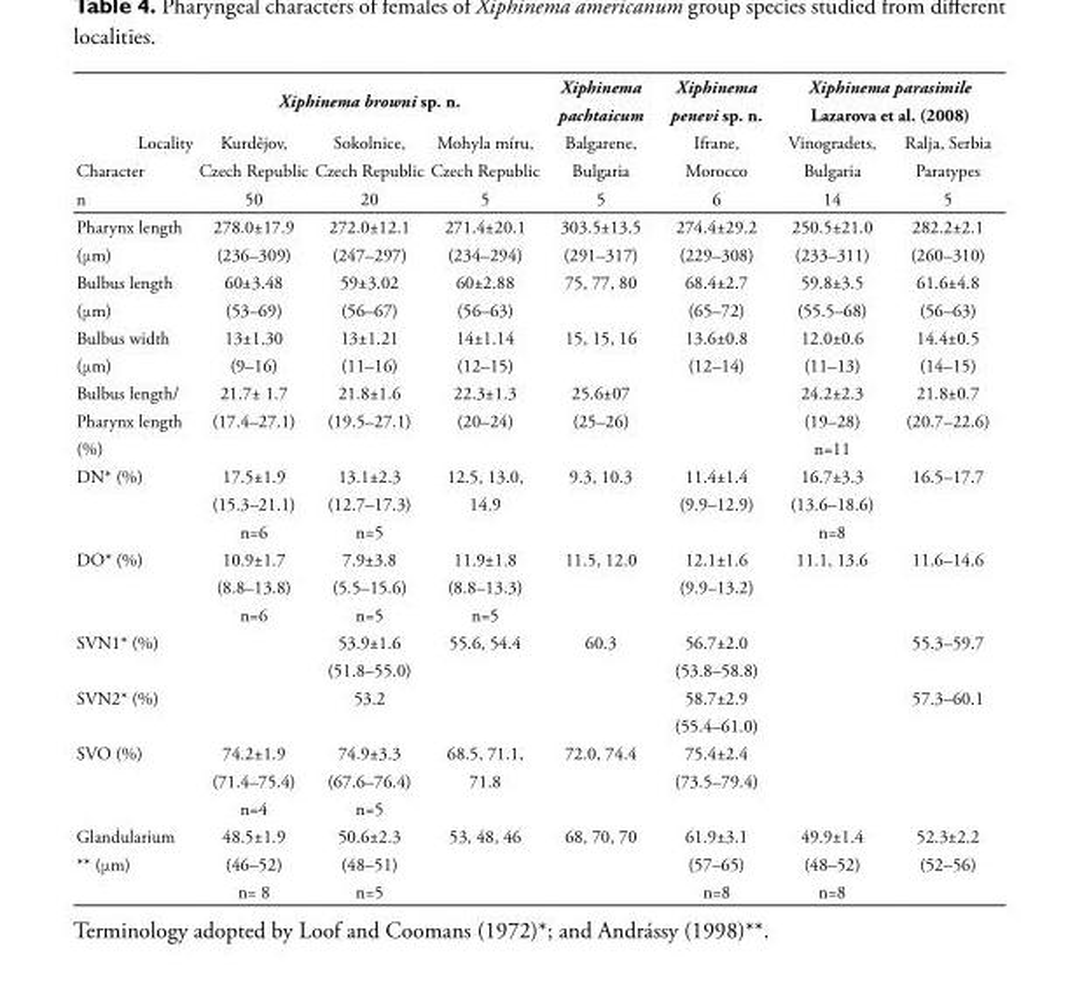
<table><thead><tr><td rowspan="2">Locality Character</td><td colspan="3">Xiphinema browni sp. n.</td><td rowspan="2">Xiphinema pachtaicum Balgarene, Bulgaria</td><td rowspan="2">Xiphinema penevi sp. n. Ifrane, Morocco</td><td colspan="2">Xiphinema parasimile Lazarova et al. (2008)</td></tr><tr><td>Kurdějov, Czech Republic</td><td>Sokolnice, Czech Republic</td><td>Mohyla míru, Czech Republic</td><td>Vinogradets, Bulgaria</td><td>Ralja, Serbia Paratypes</td></tr></thead><tbody><tr><td>n</td><td>50</td><td>20</td><td>5</td><td>5</td><td>6</td><td>14</td><td>5</td></tr><tr><td>Pharynx length (μm)</td><td>278.0±17.9 (236–309)</td><td>272.0±12.1 (247–297)</td><td>271.4±20.1 (234–294)</td><td>303.5±13.5 (291–317)</td><td>274.4±29.2 (229–308)</td><td>250.5±21.0 (233–311)</td><td>282.2±2.1 (260–310)</td></tr><tr><td>Bulbus length (μm)</td><td>60±3.48 (53–69)</td><td>59±3.02 (56–67)</td><td>60±2.88 (56–63)</td><td>75, 77, 80</td><td>68.4±2.7 (65–72)</td><td>59.8±3.5 (55.5–68)</td><td>61.6±4.8 (56–63)</td></tr><tr><td>Bulbus width (μm)</td><td>13±1.30 (9–16)</td><td>13±1.21 (11–16)</td><td>14±1.14 (12–15)</td><td>15, 15, 16</td><td>13.6±0.8 (12–14)</td><td>12.0±0.6 (11–13)</td><td>14.4±0.5 (14–15)</td></tr><tr><td>Bulbus length/ Pharynx length (%)</td><td>21.7± 1.7 (17.4–27.1)</td><td>21.8±1.6 (19.5–27.1)</td><td>22.3±1.3 (20–24)</td><td>25.6±07 (25–26)</td><td></td><td>24.2±2.3 (19–28) n=11</td><td>21.8±0.7 (20.7–22.6)</td></tr><tr><td>DN* (%)</td><td>17.5±1.9 (15.3–21.1) n=6</td><td>13.1±2.3 (12.7–17.3) n=5</td><td>12.5, 13.0, 14.9</td><td>9.3, 10.3</td><td>11.4±1.4 (9.9–12.9)</td><td>16.7±3.3 (13.6–18.6) n=8</td><td>16.5–17.7</td></tr><tr><td>DO* (%)</td><td>10.9±1.7 (8.8–13.8) n=6</td><td>7.9±3.8 (5.5–15.6) n=5</td><td>11.9±1.8 (8.8–13.3) n=5</td><td>11.5, 12.0</td><td>12.1±1.6 (9.9–13.2)</td><td>11.1, 13.6</td><td>11.6–14.6</td></tr><tr><td>SVN1* (%)</td><td></td><td>53.9±1.6 (51.8–55.0)</td><td>55.6, 54.4</td><td>60.3</td><td>56.7±2.0 (53.8–58.8)</td><td></td><td>55.3–59.7</td></tr><tr><td>SVN2* (%)</td><td></td><td>53.2</td><td></td><td></td><td>58.7±2.9 (55.4–61.0)</td><td></td><td>57.3–60.1</td></tr><tr><td>SVO (%)</td><td>74.2±1.9 (71.4–75.4) n=4</td><td>74.9±3.3 (67.6–76.4) n=5</td><td>68.5, 71.1, 71.8</td><td>72.0, 74.4</td><td>75.4±2.4 (73.5–79.4)</td><td></td><td></td></tr><tr><td>Glandularium ** (μm)</td><td>48.5±1.9 (46–52) n= 8</td><td>50.6±2.3 (48–51) n=5</td><td>53, 48, 46</td><td>68, 70, 70</td><td>61.9±3.1 (57–65) n=8</td><td>49.9±1.4 (48–52) n=8</td><td>52.3±2.2 (52–56)</td></tr></tbody></table>